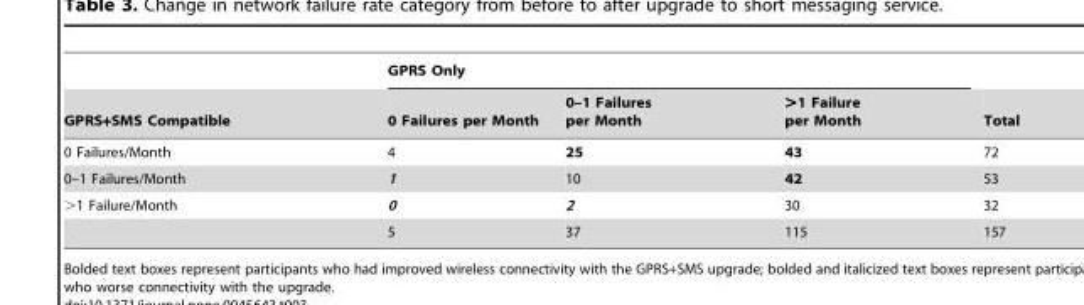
<table><thead><tr><td rowspan="2">GPRS+SMS Compatible</td><td colspan="3">GPRS Only</td><td rowspan="2">Total</td></tr><tr><td>0 Failures per Month</td><td>0–1 Failures per Month</td><td>&gt;1 Failure per Month</td></tr></thead><tbody><tr><td>0 Failures/Month</td><td>4</td><td>25</td><td>43</td><td>72</td></tr><tr><td>0–1 Failures/Month</td><td>1</td><td>10</td><td>42</td><td>53</td></tr><tr><td rowspan="2">&gt;1 Failure/Month</td><td>0</td><td>2</td><td>30</td><td>32</td></tr><tr><td>5</td><td>37</td><td>115</td><td>157</td></tr></tbody></table>